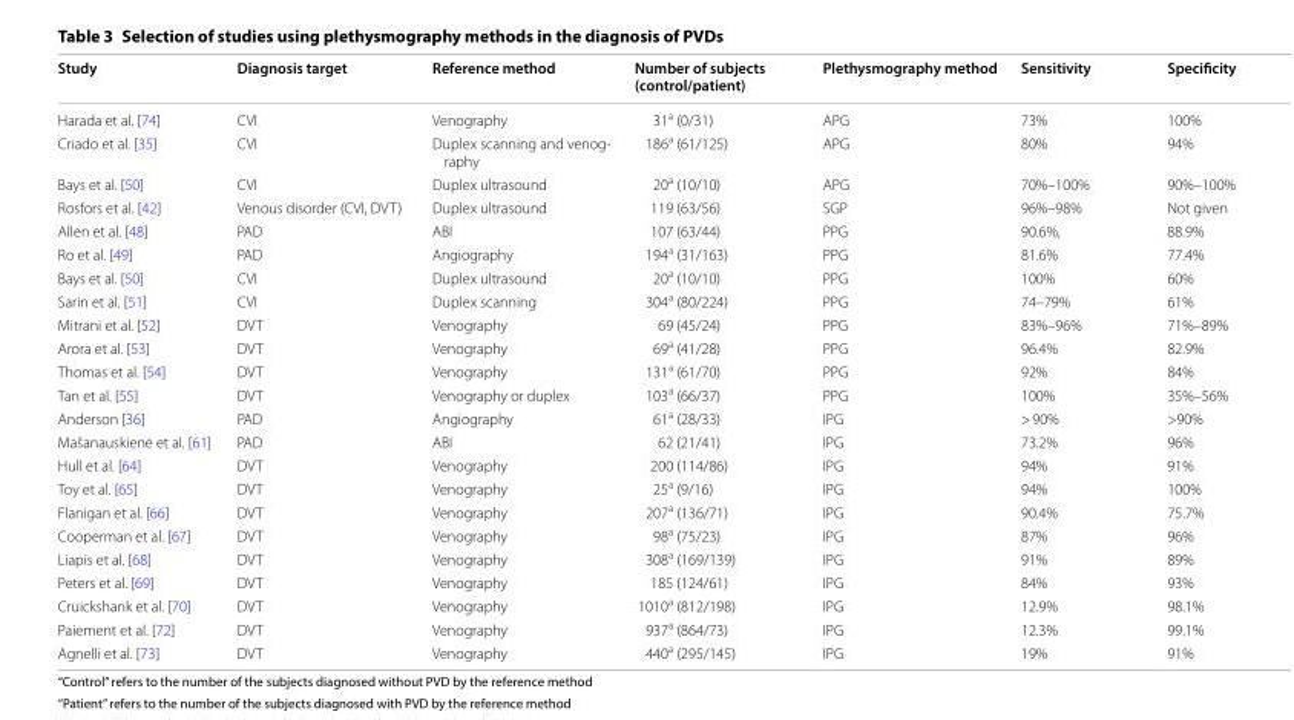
<table><thead><tr><td>Study</td><td>Diagnosis target</td><td>Reference method</td><td>Number of subjects (control/patient)</td><td>Plethysmography method</td><td>Sensitivity</td><td>Specificity</td></tr></thead><tbody><tr><td>Harada et al. [74]</td><td>CVI</td><td>Venography</td><td>31<sup>a</sup> (0/31)</td><td>APG</td><td>73%</td><td>100%</td></tr><tr><td>Criado et al. [35]</td><td>CVI</td><td>Duplex scanning and venog- raphy</td><td>186<sup>a</sup> (61/125)</td><td>APG</td><td>80%</td><td>94%</td></tr><tr><td>Bays et al. [50]</td><td>CVI</td><td>Duplex ultrasound</td><td>20<sup>a</sup> (10/10)</td><td>APG</td><td>70%–100%</td><td>90%–100%</td></tr><tr><td>Rosfors et al. [42]</td><td>Venous disorder (CVI, DVT)</td><td>Duplex ultrasound</td><td>119 (63/56)</td><td>SGP</td><td>96%–98%</td><td>Not given</td></tr><tr><td>Allen et al. [48]</td><td>PAD</td><td>ABI</td><td>107 (63/44)</td><td>PPG</td><td>90.6%,</td><td>88.9%</td></tr><tr><td>Ro et al. [49]</td><td>PAD</td><td>Angiography</td><td>194<sup>a</sup> (31/163)</td><td>PPG</td><td>81.6%</td><td>77.4%</td></tr><tr><td>Bays et al. [50]</td><td>CVI</td><td>Duplex ultrasound</td><td>20<sup>a</sup> (10/10)</td><td>PPG</td><td>100%</td><td>60%</td></tr><tr><td>Sarin et al. [51]</td><td>CVI</td><td>Duplex scanning</td><td>304<sup>a</sup> (80/224)</td><td>PPG</td><td>74–79%</td><td>61%</td></tr><tr><td>Mitrani et al. [52]</td><td>DVT</td><td>Venography</td><td>69 (45/24)</td><td>PPG</td><td>83%–96%</td><td>71%–89%</td></tr><tr><td>Arora et al. [53]</td><td>DVT</td><td>Venography</td><td>69<sup>a</sup> (41/28)</td><td>PPG</td><td>96.4%</td><td>82.9%</td></tr><tr><td>Thomas et al. [54]</td><td>DVT</td><td>Venography</td><td>131<sup>a</sup> (61/70)</td><td>PPG</td><td>92%</td><td>84%</td></tr><tr><td>Tan et al. [55]</td><td>DVT</td><td>Venography or duplex</td><td>103<sup>a</sup> (66/37)</td><td>PPG</td><td>100%</td><td>35%–56%</td></tr><tr><td>Anderson [36]</td><td>PAD</td><td>Angiography</td><td>61<sup>a</sup> (28/33)</td><td>IPG</td><td>&gt; 90%</td><td>&gt;90%</td></tr><tr><td>Mašanauskienė et al. [61]</td><td>PAD</td><td>ABI</td><td>62 (21/41)</td><td>IPG</td><td>73.2%</td><td>96%</td></tr><tr><td>Hull et al. [64]</td><td>DVT</td><td>Venography</td><td>200 (114/86)</td><td>IPG</td><td>94%</td><td>91%</td></tr><tr><td>Toy et al. [65]</td><td>DVT</td><td>Venography</td><td>25<sup>a</sup> (9/16)</td><td>IPG</td><td>94%</td><td>100%</td></tr><tr><td>Flanigan et al. [66]</td><td>DVT</td><td>Venography</td><td>207<sup>a</sup> (136/71)</td><td>IPG</td><td>90.4%</td><td>75.7%</td></tr><tr><td>Cooperman et al. [67]</td><td>DVT</td><td>Venography</td><td>98<sup>a</sup> (75/23)</td><td>IPG</td><td>87%</td><td>96%</td></tr><tr><td>Liapis et al. [68]</td><td>DVT</td><td>Venography</td><td>308<sup>a</sup> (169/139)</td><td>IPG</td><td>91%</td><td>89%</td></tr><tr><td>Peters et al. [69]</td><td>DVT</td><td>Venography</td><td>185 (124/61)</td><td>IPG</td><td>84%</td><td>93%</td></tr><tr><td>Cruickshank et al. [70]</td><td>DVT</td><td>Venography</td><td>1010<sup>a</sup> (812/198)</td><td>IPG</td><td>12.9%</td><td>98.1%</td></tr><tr><td>Paiement et al. [72]</td><td>DVT</td><td>Venography</td><td>937<sup>a</sup> (864/73)</td><td>IPG</td><td>12.3%</td><td>99.1%</td></tr><tr><td>Agnelli et al. [73]</td><td>DVT</td><td>Venography</td><td>440<sup>a</sup> (295/145)</td><td>IPG</td><td>19%</td><td>91%</td></tr></tbody></table>